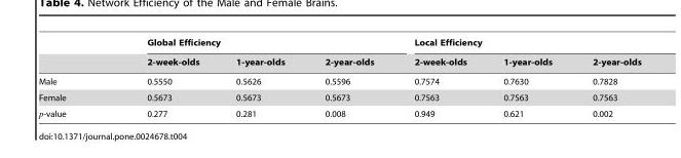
<table><thead><tr><td rowspan="2"></td><td colspan="3">Global Efficiency</td><td colspan="3">Local Efficiency</td></tr><tr><td>2-week-olds</td><td>1-year-olds</td><td>2-year-olds</td><td>2-week-olds</td><td>1-year-olds</td><td>2-year-olds</td></tr></thead><tbody><tr><td>Male</td><td>0.5550</td><td>0.5626</td><td>0.5596</td><td>0.7574</td><td>0.7630</td><td>0.7828</td></tr><tr><td>Female</td><td>0.5673</td><td>0.5673</td><td>0.5673</td><td>0.7563</td><td>0.7563</td><td>0.7563</td></tr><tr><td>p-value</td><td>0.277</td><td>0.281</td><td>0.008</td><td>0.949</td><td>0.621</td><td>0.002</td></tr></tbody></table>